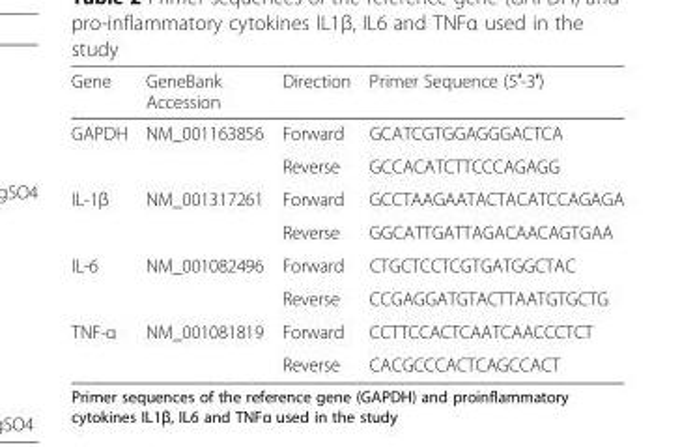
<table><thead><tr><td>Gene</td><td>GeneBank Accession</td><td>Direction</td><td>Primer Sequence (5′-3′)</td></tr></thead><tbody><tr><td rowspan="2">GAPDH</td><td rowspan="2">NM_001163856</td><td>Forward</td><td>GCATCGTGGAGGGACTCA</td></tr><tr><td>Reverse</td><td>GCCACATCTTCCCAGAGG</td></tr><tr><td rowspan="2">IL-1β</td><td rowspan="2">NM_001317261</td><td>Forward</td><td>GCCTAAGAATACTACATCCAGAGA</td></tr><tr><td>Reverse</td><td>GGCATTGATTAGACAACAGTGAA</td></tr><tr><td rowspan="2">IL-6</td><td rowspan="2">NM_001082496</td><td>Forward</td><td>CTGCTCCTCGTGATGGCTAC</td></tr><tr><td>Reverse</td><td>CCGAGGATGTACTTAATGTGCTG</td></tr><tr><td rowspan="2">TNF-α</td><td rowspan="2">NM_001081819</td><td>Forward</td><td>CCTTCCACTCAATCAACCCTCT</td></tr><tr><td>Reverse</td><td>CACGCCCACTCAGCCACT</td></tr></tbody></table>